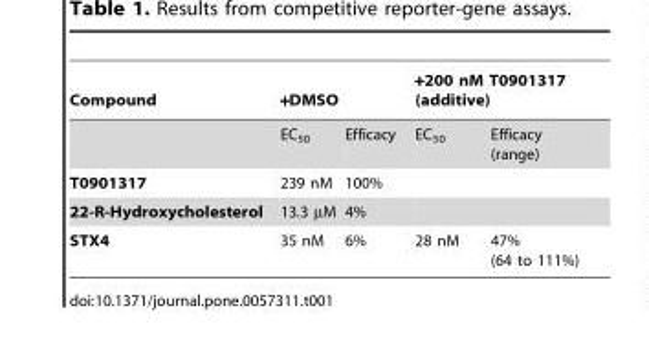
<table><thead><tr><td rowspan="2">Compound</td><td colspan="2">+DMSO</td><td colspan="2">+200 nM T0901317 (additive)</td></tr><tr><td>EC<sub>50</sub></td><td>Efficacy</td><td>EC<sub>50</sub></td><td>Efficacy (range)</td></tr></thead><tbody><tr><td>T0901317</td><td>239 nM</td><td>100%</td><td colspan="2"></td></tr><tr><td>22-R-Hydroxycholesterol</td><td>13.3 µM</td><td>4%</td><td colspan="2"></td></tr><tr><td>STX4</td><td>35 nM</td><td>6%</td><td>28 nM</td><td>47% (64 to 111%)</td></tr></tbody></table>